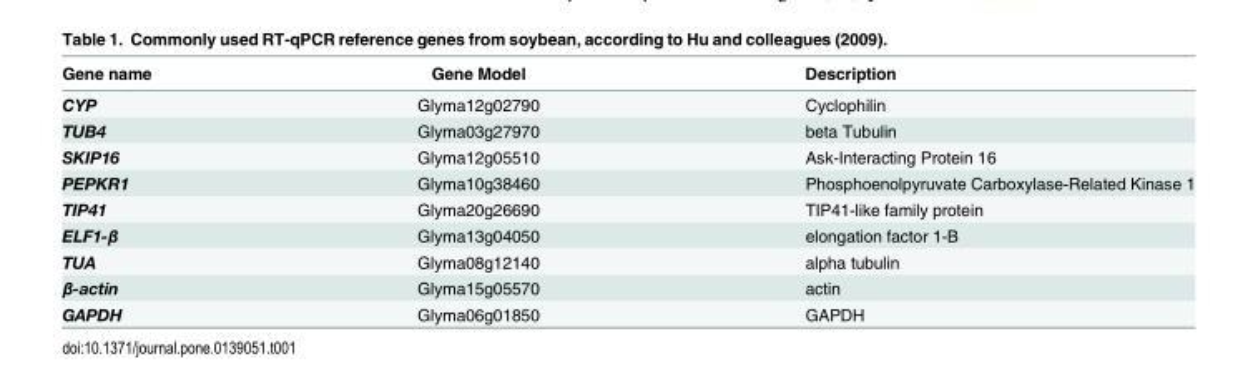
<table><thead><tr><td>Gene name</td><td>Gene Model</td><td>Description</td></tr></thead><tbody><tr><td>CYP</td><td>Glyma12g02790</td><td>Cyclophilin</td></tr><tr><td>TUB4</td><td>Glyma03g27970</td><td>beta Tubulin</td></tr><tr><td>SKIP16</td><td>Glyma12g05510</td><td>Ask-Interacting Protein 16</td></tr><tr><td>PEPKR1</td><td>Glyma10g38460</td><td>Phosphoenolpyruvate Carboxylase-Related Kinase 1</td></tr><tr><td>TIP41</td><td>Glyma20g26690</td><td>TIP41-like family protein</td></tr><tr><td>ELF1-β</td><td>Glyma13g04050</td><td>elongation factor 1-B</td></tr><tr><td>TUA</td><td>Glyma08g12140</td><td>alpha tubulin</td></tr><tr><td>β-actin</td><td>Glyma15g05570</td><td>actin</td></tr><tr><td>GAPDH</td><td>Glyma06g01850</td><td>GAPDH</td></tr></tbody></table>